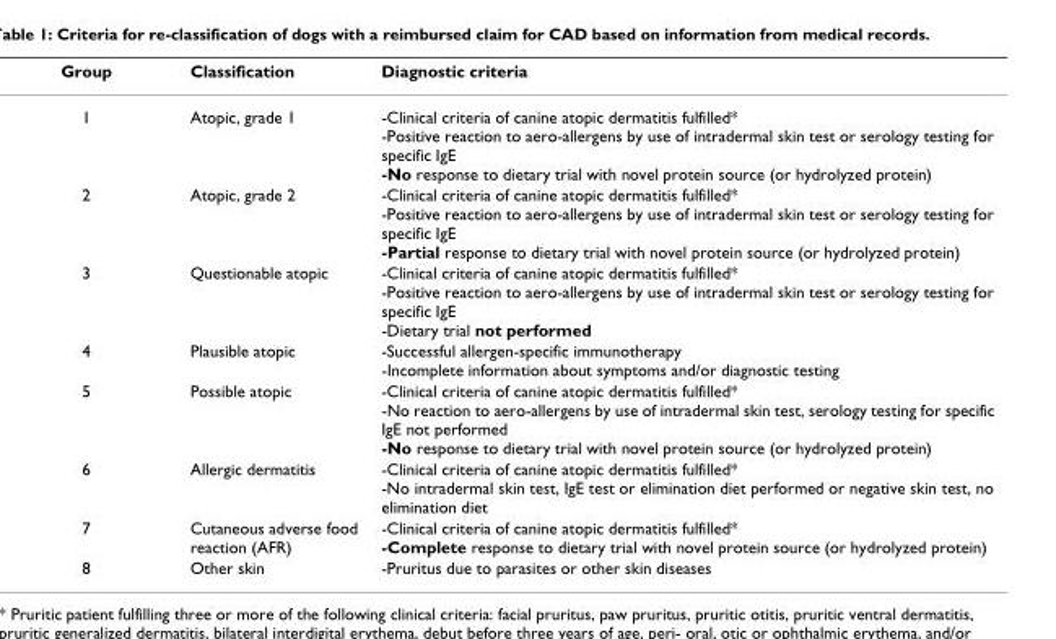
<table><thead><tr><td>Group</td><td>Classification</td><td>Diagnostic criteria</td></tr></thead><tbody><tr><td>1</td><td>Atopic, grade 1</td><td>-Clinical criteria of canine atopic dermatitis fulfilled* -Positive reaction to aero-allergens by use of intradermal skin test or serology testing for specific IgE -No response to dietary trial with novel protein source (or hydrolyzed protein)</td></tr><tr><td>2</td><td>Atopic, grade 2</td><td>-Clinical criteria of canine atopic dermatitis fulfilled* -Positive reaction to aero-allergens by use of intradermal skin test or serology testing for specific IgE -Partial response to dietary trial with novel protein source (or hydrolyzed protein)</td></tr><tr><td>3</td><td>Questionable atopic</td><td>-Clinical criteria of canine atopic dermatitis fulfilled* -Positive reaction to aero-allergens by use of intradermal skin test or serology testing for specific IgE -Dietary trial not performed</td></tr><tr><td>4</td><td>Plausible atopic</td><td>-Successful allergen-specific immunotherapy -Incomplete information about symptoms and/or diagnostic testing</td></tr><tr><td>5</td><td>Possible atopic</td><td>-Clinical criteria of canine atopic dermatitis fulfilled* -No reaction to aero-allergens by use of intradermal skin test, serology testing for specific IgE not performed -No response to dietary trial with novel protein source (or hydrolyzed protein)</td></tr><tr><td>6</td><td>Allergic dermatitis</td><td>-Clinical criteria of canine atopic dermatitis fulfilled* -No intradermal skin test, IgE test or elimination diet performed or negative skin test, no elimination diet</td></tr><tr><td>7</td><td>Cutaneous adverse food reaction (AFR)</td><td>-Clinical criteria of canine atopic dermatitis fulfilled* -Complete response to dietary trial with novel protein source (or hydrolyzed protein)</td></tr><tr><td>8</td><td>Other skin</td><td>-Pruritus due to parasites or other skin diseases</td></tr></tbody></table>